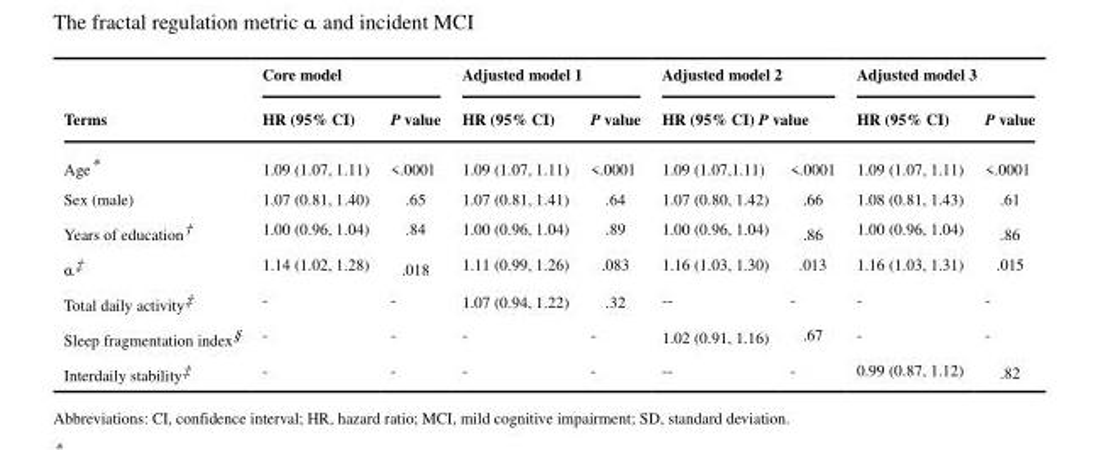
<table><thead><tr><td rowspan="3">Terms Age*</td><td colspan="2">Core model</td><td colspan="2">Adjusted model 1</td><td rowspan="2" colspan="2">Adjusted model 2 HR (95% CI) P value</td><td colspan="2">Adjusted model 3</td></tr><tr><td rowspan="2">HR (95% CI) 1.09 (1.07, 1.11)</td><td rowspan="2">P value &lt;.0001</td><td rowspan="2">HR (95% CI) 1.09 (1.07, 1.11)</td><td rowspan="2">P value &lt;.0001</td><td rowspan="2">HR (95% CI) 1.09 (1.07, 1.11)</td><td rowspan="2">P value &lt;.0001</td></tr><tr><td>1.09 (1.07,1.11)</td><td>&lt;.0001</td></tr></thead><tbody><tr><td>Sex (male)</td><td>1.07 (0.81, 1.40)</td><td>.65</td><td>1.07 (0.81, 1.41)</td><td>.64</td><td>1.07 (0.80, 1.42)</td><td>.66</td><td>1.08 (0.81, 1.43)</td><td>.61</td></tr><tr><td>Years of education†</td><td>1.00 (0.96, 1.04)</td><td>.84</td><td>1.00 (0.96, 1.04)</td><td>.89</td><td>1.00 (0.96, 1.04)</td><td>.86</td><td>1.00 (0.96, 1.04)</td><td>.86</td></tr><tr><td>α‡</td><td>1.14 (1.02, 1.28)</td><td>.018</td><td>1.11 (0.99, 1.26)</td><td>.083</td><td>1.16 (1.03, 1.30)</td><td>.013</td><td>1.16 (1.03, 1.31)</td><td>.015</td></tr><tr><td>Total daily activity‡</td><td>-</td><td>-</td><td>1.07 (0.94, 1.22)</td><td>.32</td><td>--</td><td>-</td><td>-</td><td>-</td></tr><tr><td>Sleep fragmentation index§</td><td>-</td><td>-</td><td>-</td><td>-</td><td>1.02 (0.91, 1.16)</td><td>.67</td><td>-</td><td>-</td></tr><tr><td>Interdaily stability‡</td><td>-</td><td>-</td><td>-</td><td>-</td><td>--</td><td>-</td><td>0.99 (0.87, 1.12)</td><td>.82</td></tr></tbody></table>